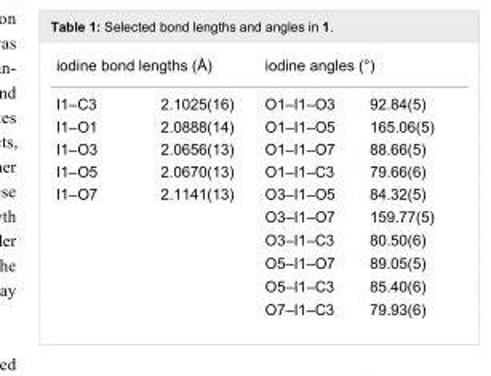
<table><tbody><tr><td colspan="2">iodine bond lengths (Å)</td><td colspan="2">iodine angles (°)</td></tr><tr><td>I1–C3</td><td>2.1025(16)</td><td>O1–I1–O3</td><td>92.84(5)</td></tr><tr><td>I1–O1</td><td>2.0888(14)</td><td>O1–I1–O5</td><td>165.06(5)</td></tr><tr><td>I1–O3</td><td>2.0656(13)</td><td>O1–I1–O7</td><td>88.66(5)</td></tr><tr><td>I1–O5</td><td>2.0670(13)</td><td>O1–I1–C3</td><td>79.66(6)</td></tr><tr><td rowspan="6">I1–O7</td><td>2.1141(13)</td><td>O3–I1–O5</td><td>84.32(5)</td></tr><tr><td></td><td>O3–I1–O7</td><td>159.77(5)</td></tr><tr><td></td><td>O3–I1–C3</td><td>80.50(6)</td></tr><tr><td></td><td>O5–I1–O7</td><td>89.05(5)</td></tr><tr><td></td><td>O5–I1–C3</td><td>85.40(6)</td></tr><tr><td></td><td>O7–I1–C3</td><td>79.93(6)</td></tr></tbody></table>